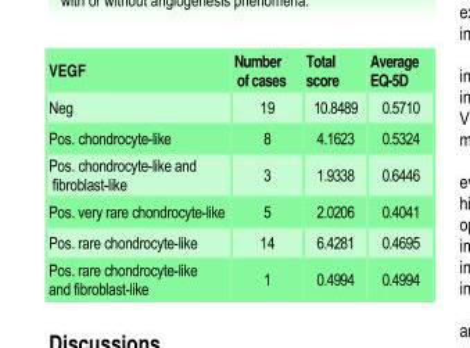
<table><thead><tr><td>VEGF</td><td>Number of cases</td><td>Total score</td><td>Average EQ-5D</td></tr></thead><tbody><tr><td>Neg</td><td>19</td><td>10.8489</td><td>0.5710</td></tr><tr><td>Pos. chondrocyte-like</td><td>8</td><td>4.1623</td><td>0.5324</td></tr><tr><td>Pos. chondrocyte-like and fibroblast-like</td><td>3</td><td>1.9338</td><td>0.6446</td></tr><tr><td>Pos. very rare chondrocyte-like</td><td>5</td><td>2.0206</td><td>0.4041</td></tr><tr><td>Pos. rare chondrocyte-like</td><td>14</td><td>6.4281</td><td>0.4695</td></tr><tr><td>Pos. rare chondrocyte-like and fibroblast-like</td><td>1</td><td>0.4994</td><td>0.4994</td></tr></tbody></table>